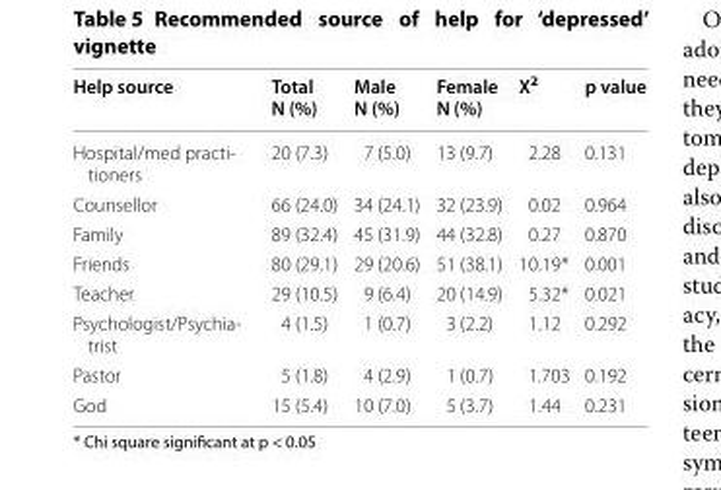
<table><thead><tr><td>Help source</td><td>Total N (%)</td><td>Male N (%)</td><td>Female N (%)</td><td>X<sup>2</sup></td><td>p value</td></tr></thead><tbody><tr><td>Hospital/med practi- tioners</td><td>20 (7.3)</td><td>7 (5.0)</td><td>13 (9.7)</td><td>2.28</td><td>0.131</td></tr><tr><td>Counsellor</td><td>66 (24.0)</td><td>34 (24.1)</td><td>32 (23.9)</td><td>0.02</td><td>0.964</td></tr><tr><td>Family</td><td>89 (32.4)</td><td>45 (31.9)</td><td>44 (32.8)</td><td>0.27</td><td>0.870</td></tr><tr><td>Friends</td><td>80 (29.1)</td><td>29 (20.6)</td><td>51 (38.1)</td><td>10.19*</td><td>0.001</td></tr><tr><td>Teacher</td><td>29 (10.5)</td><td>9 (6.4)</td><td>20 (14.9)</td><td>5.32*</td><td>0.021</td></tr><tr><td>Psychologist/Psychia- trist</td><td>4 (1.5)</td><td>1 (0.7)</td><td>3 (2.2)</td><td>1.12</td><td>0.292</td></tr><tr><td>Pastor</td><td>5 (1.8)</td><td>4 (2.9)</td><td>1 (0.7)</td><td>1.703</td><td>0.192</td></tr><tr><td>God</td><td>15 (5.4)</td><td>10 (7.0)</td><td>5 (3.7)</td><td>1.44</td><td>0.231</td></tr></tbody></table>